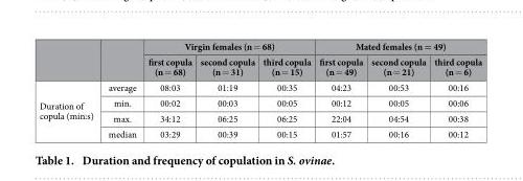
<table><thead><tr><td rowspan="2"></td><td rowspan="2"></td><td colspan="3">Virgin females (n = 68)</td><td colspan="3">Mated females (n = 49)</td></tr><tr><td>first copula (n = 68)</td><td>second copula (n = 31)</td><td>third copula (n = 15)</td><td>first copula (n = 49)</td><td>second copula (n = 21)</td><td>third copula (n = 6)</td></tr></thead><tbody><tr><td rowspan="4">Duration of copula (min:s)</td><td>average</td><td>08:03</td><td>01:19</td><td>00:35</td><td>04:23</td><td>00:53</td><td>00:16</td></tr><tr><td>min.</td><td>00:02</td><td>00:03</td><td>00:05</td><td>00:12</td><td>00:05</td><td>00:06</td></tr><tr><td>max.</td><td>34:12</td><td>06:25</td><td>06:25</td><td>22:04</td><td>04:54</td><td>00:38</td></tr><tr><td>median</td><td>03:29</td><td>00:39</td><td>00:15</td><td>01:57</td><td>00:16</td><td>00:12</td></tr></tbody></table>